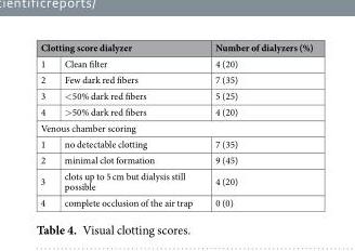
<table><thead><tr><td colspan="2">Clotting score dialyzer</td><td rowspan="2">Number of dialyzers (%) 4 (20)</td></tr><tr><td>1</td><td>Clean filter</td></tr></thead><tbody><tr><td>2</td><td>Few dark red fibers</td><td>7 (35)</td></tr><tr><td>3</td><td>&lt;50% dark red fibers</td><td>5 (25)</td></tr><tr><td>4</td><td>&gt;50% dark red fibers</td><td>4 (20)</td></tr><tr><td colspan="3">Venous chamber scoring</td></tr><tr><td>1</td><td>no detectable clotting</td><td>7 (35)</td></tr><tr><td>2</td><td>minimal clot formation</td><td>9 (45)</td></tr><tr><td>3</td><td>clots up to 5 cm but dialysis still possible</td><td>4 (20)</td></tr><tr><td>4</td><td>complete occlusion of the air trap</td><td>0 (0)</td></tr></tbody></table>